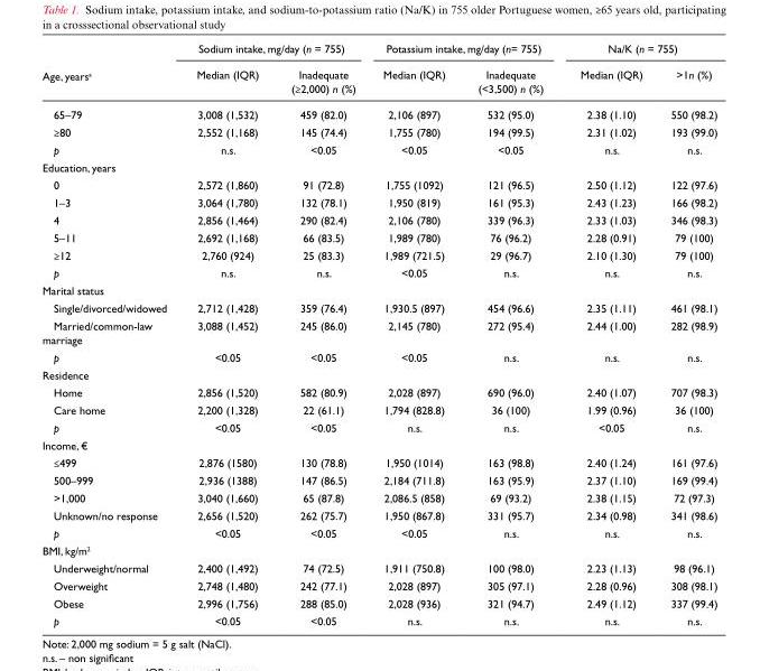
<table><thead><tr><td rowspan="2">Age, years<sup>a</sup></td><td colspan="2">Sodium intake, mg/day (n = 755)</td><td colspan="2">Potassium intake, mg/day (n= 755)</td><td colspan="2">Na/K (n = 755)</td></tr><tr><td>Median (IQR)</td><td>Inadequate (≥2,000) n (%)</td><td>Median (IQR)</td><td>Inadequate (&lt;3,500) n (%)</td><td>Median (IQR)</td><td>&gt;1n (%)</td></tr></thead><tbody><tr><td>65–79</td><td>3,008 (1,532)</td><td>459 (82.0)</td><td>2,106 (897)</td><td>532 (95.0)</td><td>2.38 (1.10)</td><td>550 (98.2)</td></tr><tr><td>≥80</td><td>2,552 (1,168)</td><td>145 (74.4)</td><td>1,755 (780)</td><td>194 (99.5)</td><td>2.31 (1.02)</td><td>193 (99.0)</td></tr><tr><td>p</td><td>n.s.</td><td>&lt;0.05</td><td>&lt;0.05</td><td>&lt;0.05</td><td>n.s.</td><td>n.s.</td></tr><tr><td colspan="7">Education, years</td></tr><tr><td>0</td><td>2,572 (1,860)</td><td>91 (72.8)</td><td>1,755 (1092)</td><td>121 (96.5)</td><td>2.50 (1.12)</td><td>122 (97.6)</td></tr><tr><td>1–3</td><td>3,064 (1,780)</td><td>132 (78.1)</td><td>1,950 (819)</td><td>161 (95.3)</td><td>2.43 (1.23)</td><td>166 (98.2)</td></tr><tr><td>4</td><td>2,856 (1,464)</td><td>290 (82.4)</td><td>2,106 (780)</td><td>339 (96.3)</td><td>2.33 (1.03)</td><td>346 (98.3)</td></tr><tr><td>5–11</td><td>2,692 (1,168)</td><td>66 (83.5)</td><td>1,989 (780)</td><td>76 (96.2)</td><td>2.28 (0.91)</td><td>79 (100)</td></tr><tr><td>≥12</td><td>2,760 (924)</td><td>25 (83.3)</td><td>1,989 (721.5)</td><td>29 (96.7)</td><td>2.10 (1.30)</td><td>79 (100)</td></tr><tr><td>p</td><td>n.s.</td><td>n.s.</td><td>&lt;0.05</td><td>n.s.</td><td>n.s.</td><td>n.s.</td></tr><tr><td colspan="7">Marital status</td></tr><tr><td>Single/divorced/widowed</td><td>2,712 (1,428)</td><td>359 (76.4)</td><td>1,930.5 (897)</td><td>454 (96.6)</td><td>2.35 (1.11)</td><td>461 (98.1)</td></tr><tr><td>Married/common-law marriage</td><td>3,088 (1,452)</td><td>245 (86.0)</td><td>2,145 (780)</td><td>272 (95.4)</td><td>2.44 (1.00)</td><td>282 (98.9)</td></tr><tr><td>p</td><td>&lt;0.05</td><td>&lt;0.05</td><td>&lt;0.05</td><td>n.s.</td><td>n.s.</td><td>n.s.</td></tr><tr><td colspan="7">Residence</td></tr><tr><td>Home</td><td>2,856 (1,520)</td><td>582 (80.9)</td><td>2,028 (897)</td><td>690 (96.0)</td><td>2.40 (1.07)</td><td>707 (98.3)</td></tr><tr><td>Care home</td><td>2,200 (1,328)</td><td>22 (61.1)</td><td>1,794 (828.8)</td><td>36 (100)</td><td>1.99 (0.96)</td><td>36 (100)</td></tr><tr><td>p</td><td>&lt;0.05</td><td>&lt;0.05</td><td>n.s.</td><td>n.s.</td><td>&lt;0.05</td><td>n.s.</td></tr><tr><td colspan="7">Income, €</td></tr><tr><td>≤499</td><td>2,876 (1580)</td><td>130 (78.8)</td><td>1,950 (1014)</td><td>163 (98.8)</td><td>2.40 (1.24)</td><td>161 (97.6)</td></tr><tr><td>500–999</td><td>2,936 (1388)</td><td>147 (86.5)</td><td>2,184 (711.8)</td><td>163 (95.9)</td><td>2.37 (1.10)</td><td>169 (99.4)</td></tr><tr><td>&gt;1,000</td><td>3,040 (1,660)</td><td>65 (87.8)</td><td>2,086.5 (858)</td><td>69 (93.2)</td><td>2.38 (1.15)</td><td>72 (97.3)</td></tr><tr><td>Unknown/no response</td><td>2,656 (1,520)</td><td>262 (75.7)</td><td>1,950 (867.8)</td><td>331 (95.7)</td><td>2.34 (0.98)</td><td>341 (98.6)</td></tr><tr><td>p</td><td>&lt;0.05</td><td>&lt;0.05</td><td>&lt;0.05</td><td>n.s.</td><td>n.s.</td><td>n.s.</td></tr><tr><td colspan="7">BMI, kg/m<sup>2</sup></td></tr><tr><td>Underweight/normal</td><td>2,400 (1,492)</td><td>74 (72.5)</td><td>1,911 (750.8)</td><td>100 (98.0)</td><td>2.23 (1.13)</td><td>98 (96.1)</td></tr><tr><td>Overweight</td><td>2,748 (1,480)</td><td>242 (77.1)</td><td>2,028 (897)</td><td>305 (97.1)</td><td>2.28 (0.96)</td><td>308 (98.1)</td></tr><tr><td>Obese</td><td>2,996 (1,756)</td><td>288 (85.0)</td><td>2,028 (936)</td><td>321 (94.7)</td><td>2.49 (1.12)</td><td>337 (99.4)</td></tr><tr><td>p</td><td>&lt;0.05</td><td>&lt;0.05</td><td>n.s.</td><td>n.s.</td><td>n.s.</td><td>n.s.</td></tr></tbody></table>